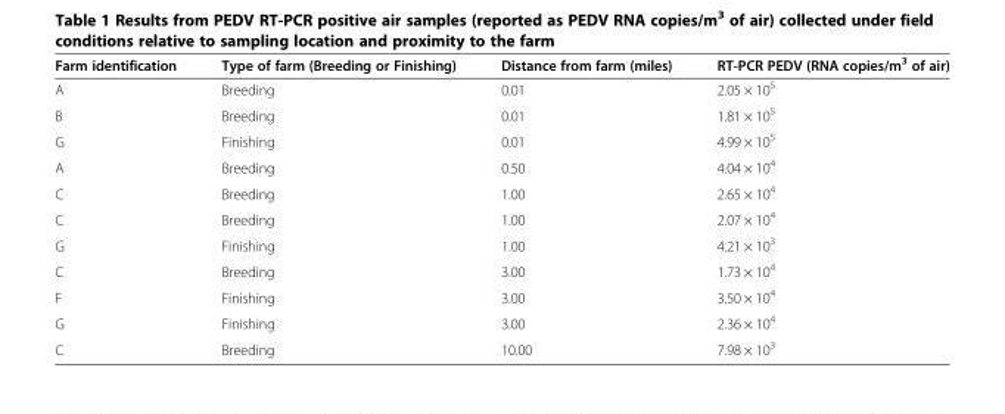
<table><thead><tr><td>Farm identification</td><td>Type of farm (Breeding or Finishing)</td><td>Distance from farm (miles)</td><td>RT-PCR PEDV (RNA copies/m<sup>3</sup> of air)</td></tr></thead><tbody><tr><td>A</td><td>Breeding</td><td>0.01</td><td>2.05 × 10<sup>5</sup></td></tr><tr><td>B</td><td>Breeding</td><td>0.01</td><td>1.81 × 10<sup>5</sup></td></tr><tr><td>G</td><td>Finishing</td><td>0.01</td><td>4.99 × 10<sup>5</sup></td></tr><tr><td>A</td><td>Breeding</td><td>0.50</td><td>4.04 × 10<sup>4</sup></td></tr><tr><td>C</td><td>Breeding</td><td>1.00</td><td>2.65 × 10<sup>4</sup></td></tr><tr><td>C</td><td>Breeding</td><td>1.00</td><td>2.07 × 10<sup>4</sup></td></tr><tr><td>G</td><td>Finishing</td><td>1.00</td><td>4.21 × 10<sup>3</sup></td></tr><tr><td>C</td><td>Breeding</td><td>3.00</td><td>1.73 × 10<sup>4</sup></td></tr><tr><td>F</td><td>Finishing</td><td>3.00</td><td>3.50 × 10<sup>4</sup></td></tr><tr><td>G</td><td>Finishing</td><td>3.00</td><td>2.36 × 10<sup>4</sup></td></tr><tr><td>C</td><td>Breeding</td><td>10.00</td><td>7.98 × 10<sup>3</sup></td></tr></tbody></table>